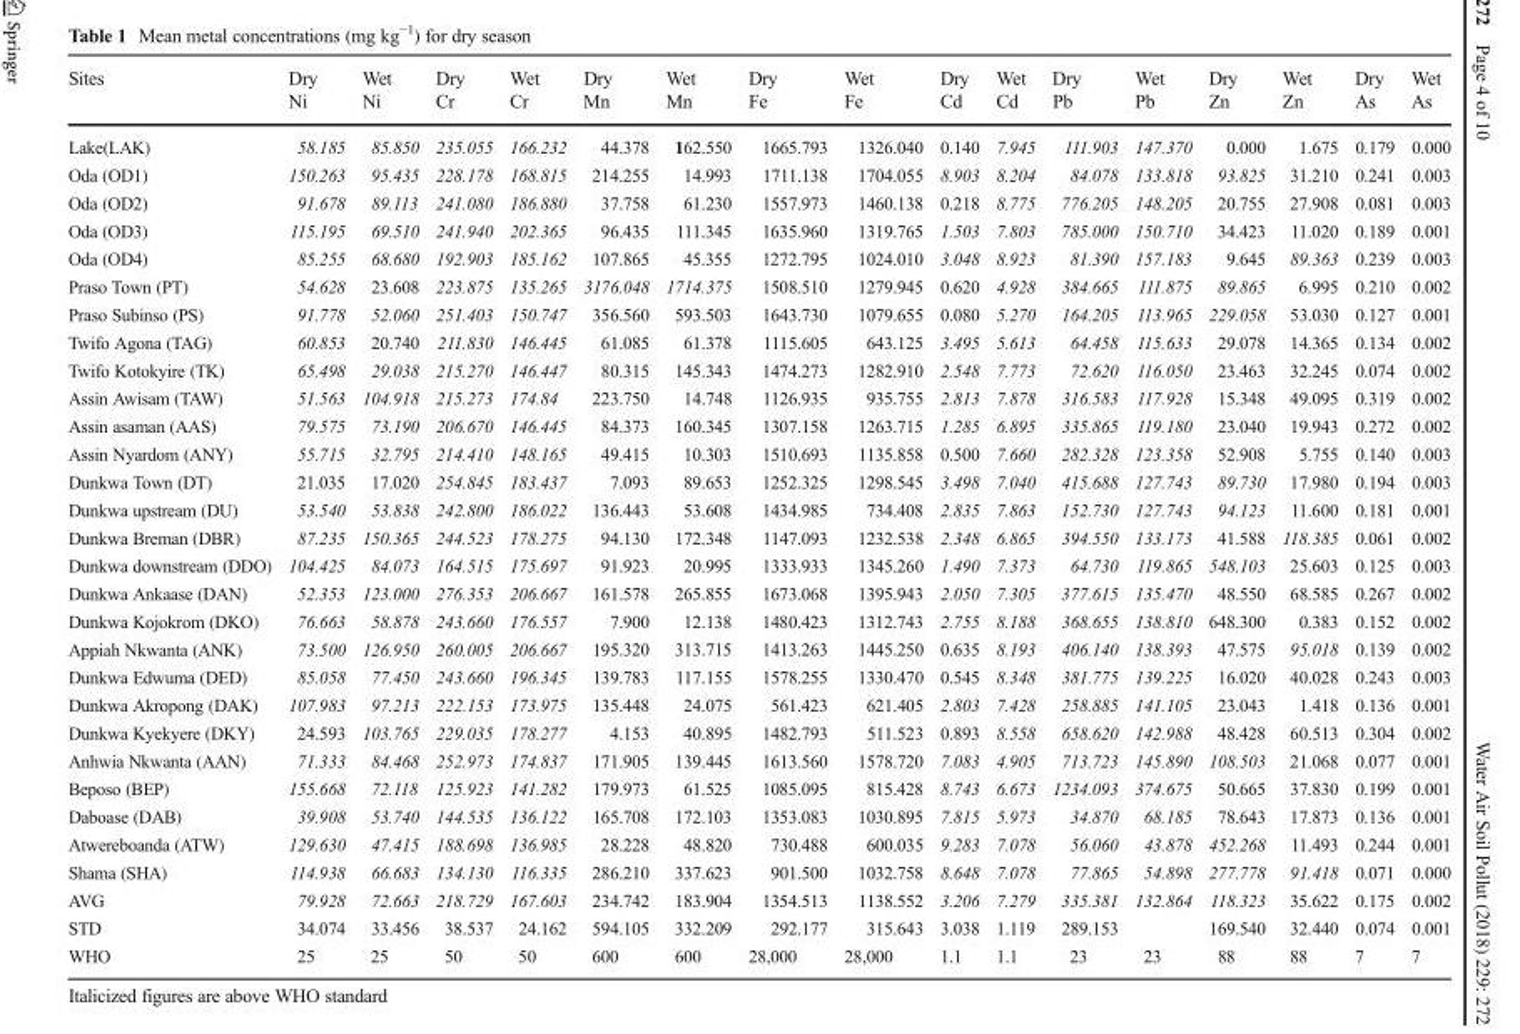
<table><thead><tr><td rowspan="2">Sites</td><td rowspan="2">Dry Ni</td><td rowspan="2">Wet Ni</td><td rowspan="2">Dry Cr</td><td rowspan="2">Wet Cr</td><td rowspan="2">Dry Mn</td><td rowspan="2">Wet Mn</td><td rowspan="2">Dry Fe</td><td rowspan="2">Wet Fe</td><td rowspan="2">Dry Cd</td><td rowspan="2">Wet Cd</td><td rowspan="2">Dry Pb</td><td rowspan="2">Wet Pb</td><td rowspan="2">Dry Zn</td><td rowspan="2">Wet Zn</td><td rowspan="2">Dry As</td><td rowspan="2">Wet As</td></tr><tr></tr></thead><tbody><tr><td>Lake(LAK)</td><td>58.185</td><td>85.850</td><td>235.055</td><td>166.232</td><td>44.378</td><td>162.550</td><td>1665.793</td><td>1326.040</td><td>0.140</td><td>7.945</td><td>111.903</td><td>147.370</td><td>0.000</td><td>1.675</td><td>0.179</td><td>0.000</td></tr><tr><td>Oda (OD1)</td><td>150.263</td><td>95.435</td><td>228.178</td><td>168.815</td><td>214.255</td><td>14.993</td><td>1711.138</td><td>1704.055</td><td>8.903</td><td>8.204</td><td>84.078</td><td>133.818</td><td>93.825</td><td>31.210</td><td>0.241</td><td>0.003</td></tr><tr><td>Oda (OD2)</td><td>91.678</td><td>89.113</td><td>241.080</td><td>186.880</td><td>37.758</td><td>61.230</td><td>1557.973</td><td>1460.138</td><td>0.218</td><td>8.775</td><td>776.205</td><td>148.205</td><td>20.755</td><td>27.908</td><td>0.081</td><td>0.003</td></tr><tr><td>Oda (OD3)</td><td>115.195</td><td>69.510</td><td>241.940</td><td>202.365</td><td>96.435</td><td>111.345</td><td>1635.960</td><td>1319.765</td><td>1.503</td><td>7.803</td><td>785.000</td><td>150.710</td><td>34.423</td><td>11.020</td><td>0.189</td><td>0.001</td></tr><tr><td>Oda (OD4)</td><td>85.255</td><td>68.680</td><td>192.903</td><td>185.162</td><td>107.865</td><td>45.355</td><td>1272.795</td><td>1024.010</td><td>3.048</td><td>8.923</td><td>81.390</td><td>157.183</td><td>9.645</td><td>89.363</td><td>0.239</td><td>0.003</td></tr><tr><td>Praso Town (PT)</td><td>54.628</td><td>23.608</td><td>223.875</td><td>135.265</td><td>3176.048</td><td>1714.375</td><td>1508.510</td><td>1279.945</td><td>0.620</td><td>4.928</td><td>384.665</td><td>111.875</td><td>89.865</td><td>6.995</td><td>0.210</td><td>0.002</td></tr><tr><td>Praso Subinso (PS)</td><td>91.778</td><td>52.060</td><td>251.403</td><td>150.747</td><td>356.560</td><td>593.503</td><td>1643.730</td><td>1079.655</td><td>0.080</td><td>5.270</td><td>164.205</td><td>113.965</td><td>229.058</td><td>53.030</td><td>0.127</td><td>0.001</td></tr><tr><td>Twifo Agona (TAG)</td><td>60.853</td><td>20.740</td><td>211.830</td><td>146.445</td><td>61.085</td><td>61.378</td><td>1115.605</td><td>643.125</td><td>3.495</td><td>5.613</td><td>64.458</td><td>115.633</td><td>29.078</td><td>14.365</td><td>0.134</td><td>0.002</td></tr><tr><td>Twifo Kotokyire (TK)</td><td>65.498</td><td>29.038</td><td>215.270</td><td>146.447</td><td>80.315</td><td>145.343</td><td>1474.273</td><td>1282.910</td><td>2.548</td><td>7.773</td><td>72.620</td><td>116.050</td><td>23.463</td><td>32.245</td><td>0.074</td><td>0.002</td></tr><tr><td>Assin Awisam (TAW)</td><td>51.563</td><td>104.918</td><td>215.273</td><td>174.84</td><td>223.750</td><td>14.748</td><td>1126.935</td><td>935.755</td><td>2.813</td><td>7.878</td><td>316.583</td><td>117.928</td><td>15.348</td><td>49.095</td><td>0.319</td><td>0.002</td></tr><tr><td>Assin asaman (AAS)</td><td>79.575</td><td>73.190</td><td>206.670</td><td>146.445</td><td>84.373</td><td>160.345</td><td>1307.158</td><td>1263.715</td><td>1.285</td><td>6.895</td><td>335.865</td><td>119.180</td><td>23.040</td><td>19.943</td><td>0.272</td><td>0.002</td></tr><tr><td>Assin Nyardom (ANY)</td><td>55.715</td><td>32.795</td><td>214.410</td><td>148.165</td><td>49.415</td><td>10.303</td><td>1510.693</td><td>1135.858</td><td>0.500</td><td>7.660</td><td>282.328</td><td>123.358</td><td>52.908</td><td>5.755</td><td>0.140</td><td>0.003</td></tr><tr><td>Dunkwa Town (DT)</td><td>21.035</td><td>17.020</td><td>254.845</td><td>183.437</td><td>7.093</td><td>89.653</td><td>1252.325</td><td>1298.545</td><td>3.498</td><td>7.040</td><td>415.688</td><td>127.743</td><td>89.730</td><td>17.980</td><td>0.194</td><td>0.003</td></tr><tr><td>Dunkwa upstream (DU)</td><td>53.540</td><td>53.838</td><td>242.800</td><td>186.022</td><td>136.443</td><td>53.608</td><td>1434.985</td><td>734.408</td><td>2.835</td><td>7.863</td><td>152.730</td><td>127.743</td><td>94.123</td><td>11.600</td><td>0.181</td><td>0.001</td></tr><tr><td>Dunkwa Breman (DBR)</td><td>87.235</td><td>150.365</td><td>244.523</td><td>178.275</td><td>94.130</td><td>172.348</td><td>1147.093</td><td>1232.538</td><td>2.348</td><td>6.865</td><td>394.550</td><td>133.173</td><td>41.588</td><td>118.385</td><td>0.061</td><td>0.002</td></tr><tr><td>Dunkwa downstream (DDO)</td><td>104.425</td><td>84.073</td><td>164.515</td><td>175.697</td><td>91.923</td><td>20.995</td><td>1333.933</td><td>1345.260</td><td>1.490</td><td>7.373</td><td>64.730</td><td>119.865</td><td>548.103</td><td>25.603</td><td>0.125</td><td>0.003</td></tr><tr><td>Dunkwa Ankaase (DAN)</td><td>52.353</td><td>123.000</td><td>276.353</td><td>206.667</td><td>161.578</td><td>265.855</td><td>1673.068</td><td>1395.943</td><td>2.050</td><td>7.305</td><td>377.615</td><td>135.470</td><td>48.550</td><td>68.585</td><td>0.267</td><td>0.002</td></tr><tr><td>Dunkwa Kojokrom (DKO)</td><td>76.663</td><td>58.878</td><td>243.660</td><td>176.557</td><td>7.900</td><td>12.138</td><td>1480.423</td><td>1312.743</td><td>2.755</td><td>8.188</td><td>368.655</td><td>138.810</td><td>648.300</td><td>0.383</td><td>0.152</td><td>0.002</td></tr><tr><td>Appiah Nkwanta (ANK)</td><td>73.500</td><td>126.950</td><td>260.005</td><td>206.667</td><td>195.320</td><td>313.715</td><td>1413.263</td><td>1445.250</td><td>0.635</td><td>8.193</td><td>406.140</td><td>138.393</td><td>47.575</td><td>95.018</td><td>0.139</td><td>0.002</td></tr><tr><td>Dunkwa Edwuma (DED)</td><td>85.058</td><td>77.450</td><td>243.660</td><td>196.345</td><td>139.783</td><td>117.155</td><td>1578.255</td><td>1330.470</td><td>0.545</td><td>8.348</td><td>381.775</td><td>139.225</td><td>16.020</td><td>40.028</td><td>0.243</td><td>0.003</td></tr><tr><td>Dunkwa Akropong (DAK)</td><td>107.983</td><td>97.213</td><td>222.153</td><td>173.975</td><td>135.448</td><td>24.075</td><td>561.423</td><td>621.405</td><td>2.803</td><td>7.428</td><td>258.885</td><td>141.105</td><td>23.043</td><td>1.418</td><td>0.136</td><td>0.001</td></tr><tr><td>Dunkwa Kyekyere (DKY)</td><td>24.593</td><td>103.765</td><td>229.035</td><td>178.277</td><td>4.153</td><td>40.895</td><td>1482.793</td><td>511.523</td><td>0.893</td><td>8.558</td><td>658.620</td><td>142.988</td><td>48.428</td><td>60.513</td><td>0.304</td><td>0.002</td></tr><tr><td>Anhwia Nkwanta (AAN)</td><td>71.333</td><td>84.468</td><td>252.973</td><td>174.837</td><td>171.905</td><td>139.445</td><td>1613.560</td><td>1578.720</td><td>7.083</td><td>4.905</td><td>713.723</td><td>145.890</td><td>108.503</td><td>21.068</td><td>0.077</td><td>0.001</td></tr><tr><td>Beposo (BEP)</td><td>155.668</td><td>72.118</td><td>125.923</td><td>141.282</td><td>179.973</td><td>61.525</td><td>1085.095</td><td>815.428</td><td>8.743</td><td>6.673</td><td>1234.093</td><td>374.675</td><td>50.665</td><td>37.830</td><td>0.199</td><td>0.001</td></tr><tr><td>Daboase (DAB)</td><td>39.908</td><td>53.740</td><td>144.535</td><td>136.122</td><td>165.708</td><td>172.103</td><td>1353.083</td><td>1030.895</td><td>7.815</td><td>5.973</td><td>34.870</td><td>68.185</td><td>78.643</td><td>17.873</td><td>0.136</td><td>0.001</td></tr><tr><td>Atwereboanda (ATW)</td><td>129.630</td><td>47.415</td><td>188.698</td><td>136.985</td><td>28.228</td><td>48.820</td><td>730.488</td><td>600.035</td><td>9.283</td><td>7.078</td><td>56.060</td><td>43.878</td><td>452.268</td><td>11.493</td><td>0.244</td><td>0.001</td></tr><tr><td>Shama (SHA)</td><td>114.938</td><td>66.683</td><td>134.130</td><td>116.335</td><td>286.210</td><td>337.623</td><td>901.500</td><td>1032.758</td><td>8.648</td><td>7.078</td><td>77.865</td><td>54.898</td><td>277.778</td><td>91.418</td><td>0.071</td><td>0.000</td></tr><tr><td>AVG</td><td>79.928</td><td>72.663</td><td>218.729</td><td>167.603</td><td>234.742</td><td>183.904</td><td>1354.513</td><td>1138.552</td><td>3.206</td><td>7.279</td><td>335.381</td><td>132.864</td><td>118.323</td><td>35.622</td><td>0.175</td><td>0.002</td></tr><tr><td>STD</td><td>34.074</td><td>33.456</td><td>38.537</td><td>24.162</td><td>594.105</td><td>332.209</td><td>292.177</td><td>315.643</td><td>3.038</td><td>1.119</td><td>289.153</td><td></td><td>169.540</td><td>32.440</td><td>0.074</td><td>0.001</td></tr><tr><td>WHO</td><td>25</td><td>25</td><td>50</td><td>50</td><td>600</td><td>600</td><td>28,000</td><td>28,000</td><td>1.1</td><td>1.1</td><td>23</td><td>23</td><td>88</td><td>88</td><td>7</td><td>7</td></tr></tbody></table>